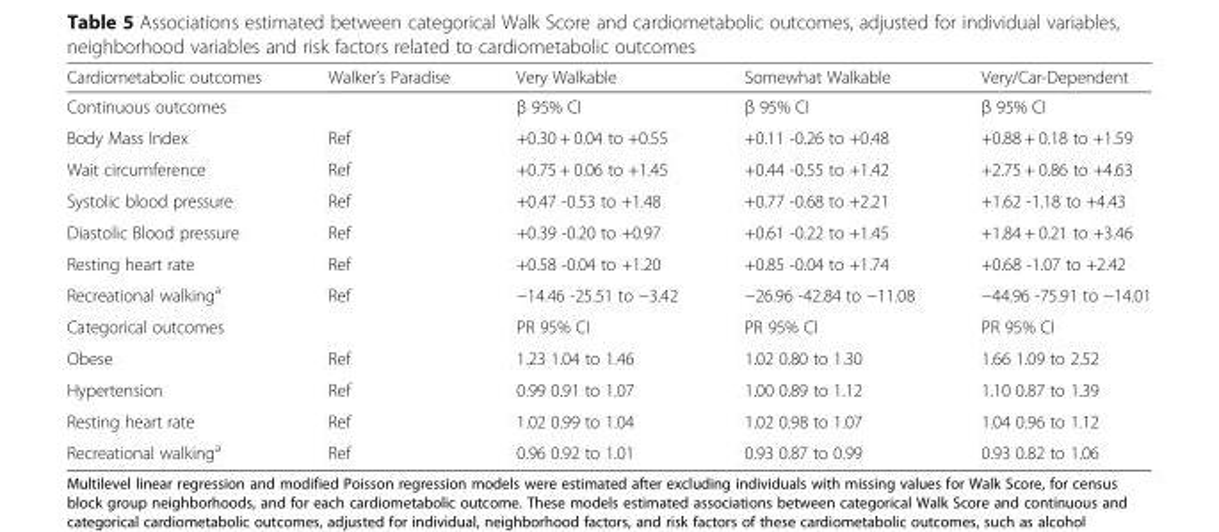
<table><thead><tr><td>Cardiometabolic outcomes</td><td>Walker’s Paradise</td><td>Very Walkable</td><td>Somewhat Walkable</td><td>Very/Car-Dependent</td></tr></thead><tbody><tr><td>Continuous outcomes</td><td></td><td>β 95% CI</td><td>β 95% CI</td><td>β 95% CI</td></tr><tr><td>Body Mass Index</td><td>Ref</td><td>+0.30 + 0.04 to +0.55</td><td>+0.11 -0.26 to +0.48</td><td>+0.88 + 0.18 to +1.59</td></tr><tr><td>Wait circumference</td><td>Ref</td><td>+0.75 + 0.06 to +1.45</td><td>+0.44 -0.55 to +1.42</td><td>+2.75 + 0.86 to +4.63</td></tr><tr><td>Systolic blood pressure</td><td>Ref</td><td>+0.47 -0.53 to +1.48</td><td>+0.77 -0.68 to +2.21</td><td>+1.62 -1.18 to +4.43</td></tr><tr><td>Diastolic Blood pressure</td><td>Ref</td><td>+0.39 -0.20 to +0.97</td><td>+0.61 -0.22 to +1.45</td><td>+1.84 + 0.21 to +3.46</td></tr><tr><td>Resting heart rate</td><td>Ref</td><td>+0.58 -0.04 to +1.20</td><td>+0.85 -0.04 to +1.74</td><td>+0.68 -1.07 to +2.42</td></tr><tr><td>Recreational walking<sup>a</sup></td><td>Ref</td><td>−14.46 -25.51 to −3.42</td><td>−26.96 -42.84 to −11.08</td><td>−44.96 -75.91 to −14.01</td></tr><tr><td>Categorical outcomes</td><td></td><td>PR 95% CI</td><td>PR 95% CI</td><td>PR 95% CI</td></tr><tr><td>Obese</td><td>Ref</td><td>1.23 1.04 to 1.46</td><td>1.02 0.80 to 1.30</td><td>1.66 1.09 to 2.52</td></tr><tr><td>Hypertension</td><td>Ref</td><td>0.99 0.91 to 1.07</td><td>1.00 0.89 to 1.12</td><td>1.10 0.87 to 1.39</td></tr><tr><td>Resting heart rate</td><td>Ref</td><td>1.02 0.99 to 1.04</td><td>1.02 0.98 to 1.07</td><td>1.04 0.96 to 1.12</td></tr><tr><td>Recreational walking<sup>a</sup></td><td>Ref</td><td>0.96 0.92 to 1.01</td><td>0.93 0.87 to 0.99</td><td>0.93 0.82 to 1.06</td></tr></tbody></table>